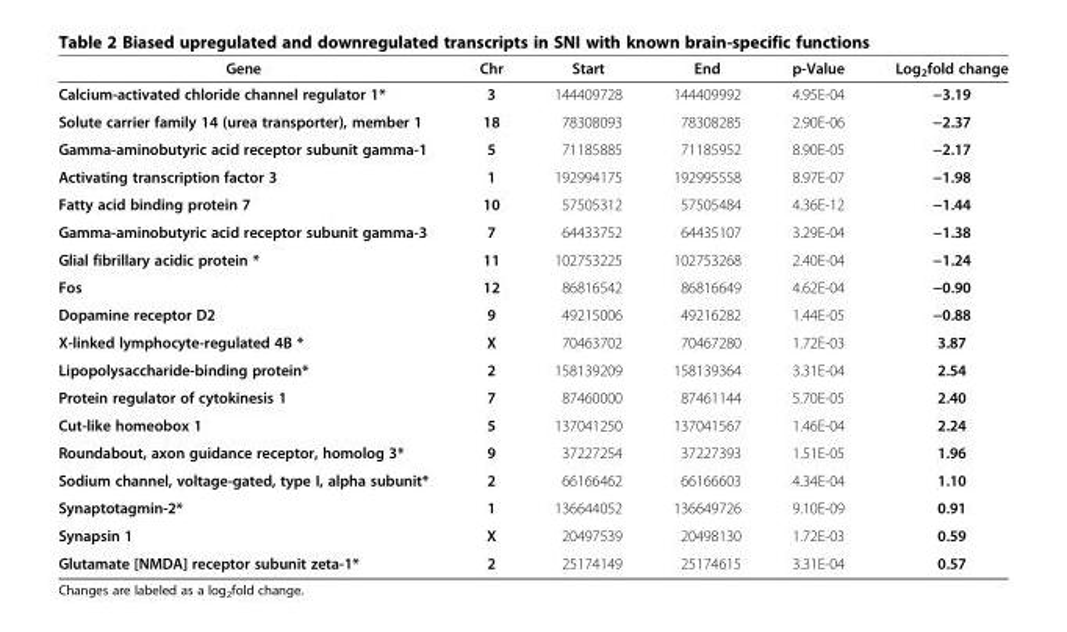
<table><thead><tr><td>Gene</td><td>Chr</td><td>Start</td><td>End</td><td>p-Value</td><td>Log<sub>2</sub>fold change</td></tr></thead><tbody><tr><td>Calcium-activated chloride channel regulator 1*</td><td>3</td><td>144409728</td><td>144409992</td><td>4.95E-04</td><td>−3.19</td></tr><tr><td>Solute carrier family 14 (urea transporter), member 1</td><td>18</td><td>78308093</td><td>78308285</td><td>2.90E-06</td><td>−2.37</td></tr><tr><td>Gamma-aminobutyric acid receptor subunit gamma-1</td><td>5</td><td>71185885</td><td>71185952</td><td>8.90E-05</td><td>−2.17</td></tr><tr><td>Activating transcription factor 3</td><td>1</td><td>192994175</td><td>192995558</td><td>8.97E-07</td><td>−1.98</td></tr><tr><td>Fatty acid binding protein 7</td><td>10</td><td>57505312</td><td>57505484</td><td>4.36E-12</td><td>−1.44</td></tr><tr><td>Gamma-aminobutyric acid receptor subunit gamma-3</td><td>7</td><td>64433752</td><td>64435107</td><td>3.29E-04</td><td>−1.38</td></tr><tr><td>Glial fibrillary acidic protein *</td><td>11</td><td>102753225</td><td>102753268</td><td>2.40E-04</td><td>−1.24</td></tr><tr><td>Fos</td><td>12</td><td>86816542</td><td>86816649</td><td>4.62E-04</td><td>−0.90</td></tr><tr><td>Dopamine receptor D2</td><td>9</td><td>49215006</td><td>49216282</td><td>1.44E-05</td><td>−0.88</td></tr><tr><td>X-linked lymphocyte-regulated 4B *</td><td>X</td><td>70463702</td><td>70467280</td><td>1.72E-03</td><td>3.87</td></tr><tr><td>Lipopolysaccharide-binding protein*</td><td>2</td><td>158139209</td><td>158139364</td><td>3.31E-04</td><td>2.54</td></tr><tr><td>Protein regulator of cytokinesis 1</td><td>7</td><td>87460000</td><td>87461144</td><td>5.70E-05</td><td>2.40</td></tr><tr><td>Cut-like homeobox 1</td><td>5</td><td>137041250</td><td>137041567</td><td>1.46E-04</td><td>2.24</td></tr><tr><td>Roundabout, axon guidance receptor, homolog 3*</td><td>9</td><td>37227254</td><td>37227393</td><td>1.51E-05</td><td>1.96</td></tr><tr><td>Sodium channel, voltage-gated, type I, alpha subunit*</td><td>2</td><td>66166462</td><td>66166603</td><td>4.34E-04</td><td>1.10</td></tr><tr><td>Synaptotagmin-2*</td><td>1</td><td>136644052</td><td>136649726</td><td>9.10E-09</td><td>0.91</td></tr><tr><td>Synapsin 1</td><td>X</td><td>20497539</td><td>20498130</td><td>1.72E-03</td><td>0.59</td></tr><tr><td>Glutamate [NMDA] receptor subunit zeta-1*</td><td>2</td><td>25174149</td><td>25174615</td><td>3.31E-04</td><td>0.57</td></tr></tbody></table>